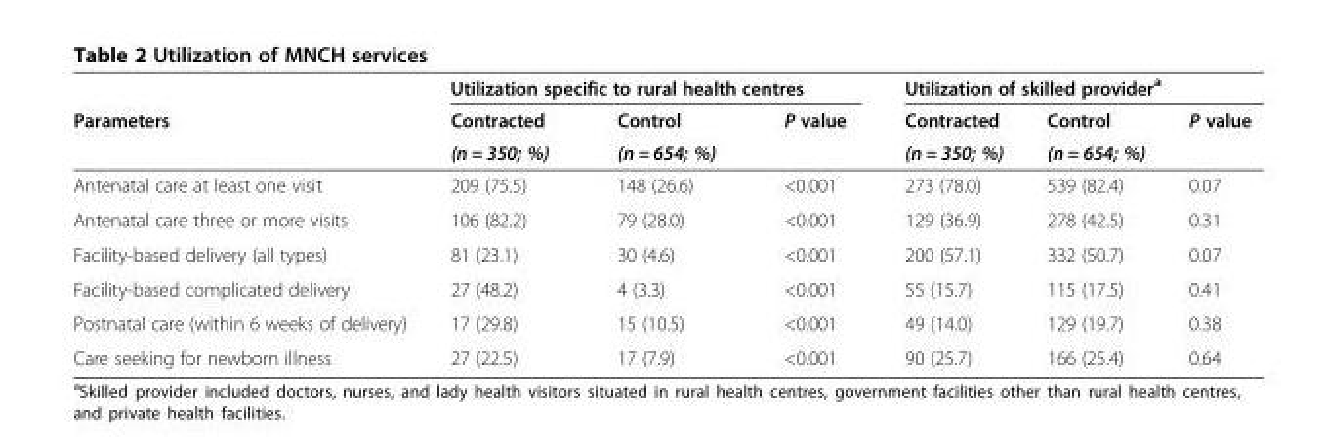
<table><thead><tr><td rowspan="3">Parameters</td><td colspan="3">Utilization specific to rural health centres</td><td colspan="3">Utilization of skilled provider<sup>a</sup></td></tr><tr><td rowspan="2">Contracted (n = 350; %)</td><td rowspan="2">Control (n = 654; %)</td><td rowspan="2">P value</td><td rowspan="2">Contracted (n = 350; %)</td><td rowspan="2">Control (n = 654; %)</td><td rowspan="2">P value</td></tr><tr></tr></thead><tbody><tr><td>Antenatal care at least one visit</td><td>209 (75.5)</td><td>148 (26.6)</td><td>&lt;0.001</td><td>273 (78.0)</td><td>539 (82.4)</td><td>0.07</td></tr><tr><td>Antenatal care three or more visits</td><td>106 (82.2)</td><td>79 (28.0)</td><td>&lt;0.001</td><td>129 (36.9)</td><td>278 (42.5)</td><td>0.31</td></tr><tr><td>Facility-based delivery (all types)</td><td>81 (23.1)</td><td>30 (4.6)</td><td>&lt;0.001</td><td>200 (57.1)</td><td>332 (50.7)</td><td>0.07</td></tr><tr><td>Facility-based complicated delivery</td><td>27 (48.2)</td><td>4 (3.3)</td><td>&lt;0.001</td><td>55 (15.7)</td><td>115 (17.5)</td><td>0.41</td></tr><tr><td>Postnatal care (within 6 weeks of delivery)</td><td>17 (29.8)</td><td>15 (10.5)</td><td>&lt;0.001</td><td>49 (14.0)</td><td>129 (19.7)</td><td>0.38</td></tr><tr><td>Care seeking for newborn illness</td><td>27 (22.5)</td><td>17 (7.9)</td><td>&lt;0.001</td><td>90 (25.7)</td><td>166 (25.4)</td><td>0.64</td></tr></tbody></table>